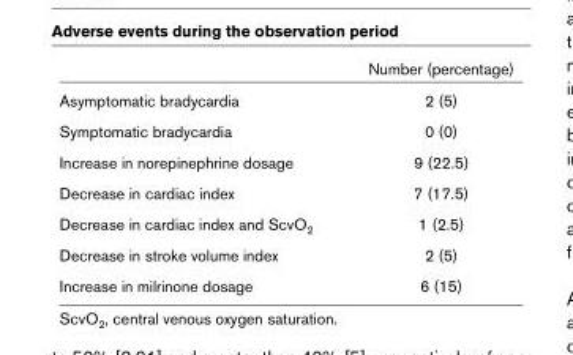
<table><thead><tr><td></td><td>Number (percentage)</td></tr></thead><tbody><tr><td>Asymptomatic bradycardia</td><td>2 (5)</td></tr><tr><td>Symptomatic bradycardia</td><td>0 (0)</td></tr><tr><td>Increase in norepinephrine dosage</td><td>9 (22.5)</td></tr><tr><td>Decrease in cardiac index</td><td>7 (17.5)</td></tr><tr><td>Decrease in cardiac index and ScvO<sub>2</sub></td><td>1 (2.5)</td></tr><tr><td>Decrease in stroke volume index</td><td>2 (5)</td></tr><tr><td>Increase in milrinone dosage</td><td>6 (15)</td></tr></tbody></table>